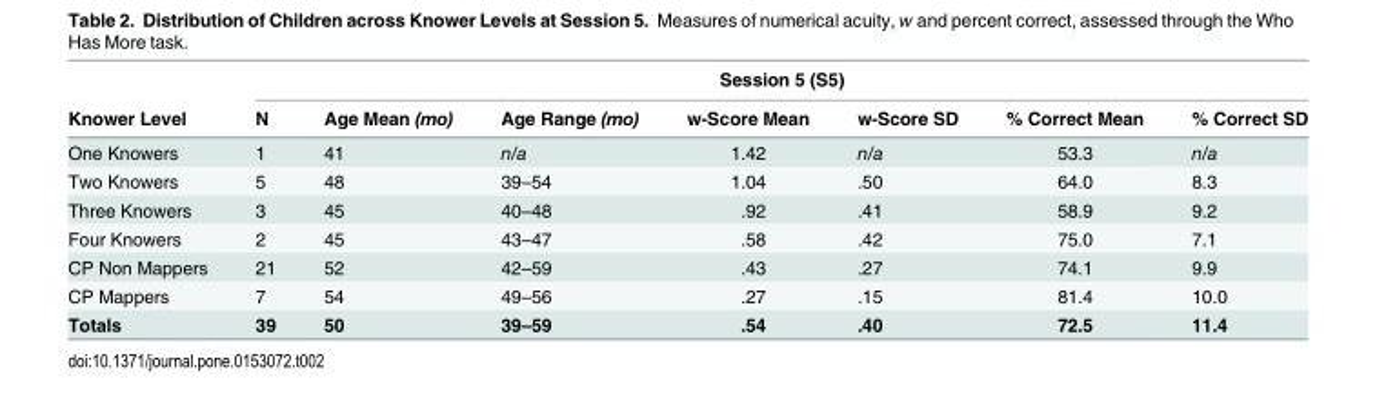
<table><thead><tr><td rowspan="2">Knower Level</td><td colspan="7">Session 5 (S5)</td></tr><tr><td>N</td><td>Age Mean (mo)</td><td>Age Range (mo)</td><td>w-Score Mean</td><td>w-Score SD</td><td>% Correct Mean</td><td>% Correct SD</td></tr></thead><tbody><tr><td>One Knowers</td><td>1</td><td>41</td><td>n/a</td><td>1.42</td><td>n/a</td><td>53.3</td><td>n/a</td></tr><tr><td>Two Knowers</td><td>5</td><td>48</td><td>39–54</td><td>1.04</td><td>.50</td><td>64.0</td><td>8.3</td></tr><tr><td>Three Knowers</td><td>3</td><td>45</td><td>40–48</td><td>.92</td><td>.41</td><td>58.9</td><td>9.2</td></tr><tr><td>Four Knowers</td><td>2</td><td>45</td><td>43–47</td><td>.58</td><td>.42</td><td>75.0</td><td>7.1</td></tr><tr><td>CP Non Mappers</td><td>21</td><td>52</td><td>42–59</td><td>.43</td><td>.27</td><td>74.1</td><td>9.9</td></tr><tr><td>CP Mappers</td><td>7</td><td>54</td><td>49–56</td><td>.27</td><td>.15</td><td>81.4</td><td>10.0</td></tr><tr><td>Totals</td><td>39</td><td>50</td><td>39–59</td><td>.54</td><td>.40</td><td>72.5</td><td>11.4</td></tr></tbody></table>